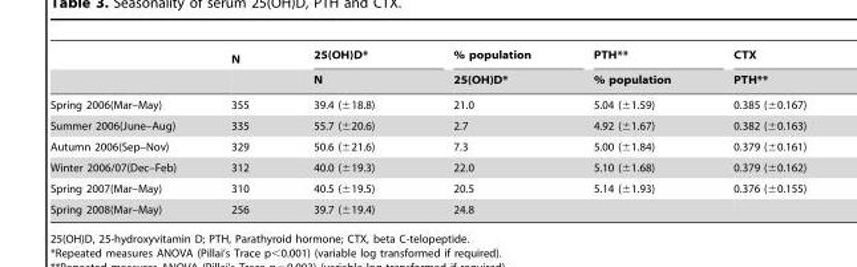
<table><thead><tr><td rowspan="2"></td><td rowspan="2">N</td><td rowspan="2">25(OH)D* N</td><td rowspan="2">% population 25(OH)D*</td><td rowspan="2">PTH** % population</td><td rowspan="2">CTX PTH**</td></tr><tr></tr></thead><tbody><tr><td>Spring 2006(Mar–May)</td><td>355</td><td>39.4 (±18.8)</td><td>21.0</td><td>5.04 (±1.59)</td><td>0.385 (±0.167)</td></tr><tr><td>Summer 2006(June–Aug)</td><td>335</td><td>55.7 (±20.6)</td><td>2.7</td><td>4.92 (±1.67)</td><td>0.382 (±0.163)</td></tr><tr><td>Autumn 2006(Sep–Nov)</td><td>329</td><td>50.6 (±21.6)</td><td>7.3</td><td>5.00 (±1.84)</td><td>0.379 (±0.161)</td></tr><tr><td>Winter 2006/07(Dec–Feb)</td><td>312</td><td>40.0 (±19.3)</td><td>22.0</td><td>5.10 (±1.68)</td><td>0.379 (±0.162)</td></tr><tr><td>Spring 2007(Mar–May)</td><td>310</td><td>40.5 (±19.5)</td><td>20.5</td><td>5.14 (±1.93)</td><td>0.376 (±0.155)</td></tr><tr><td>Spring 2008(Mar–May)</td><td>256</td><td>39.7 (±19.4)</td><td>24.8</td><td></td><td></td></tr></tbody></table>